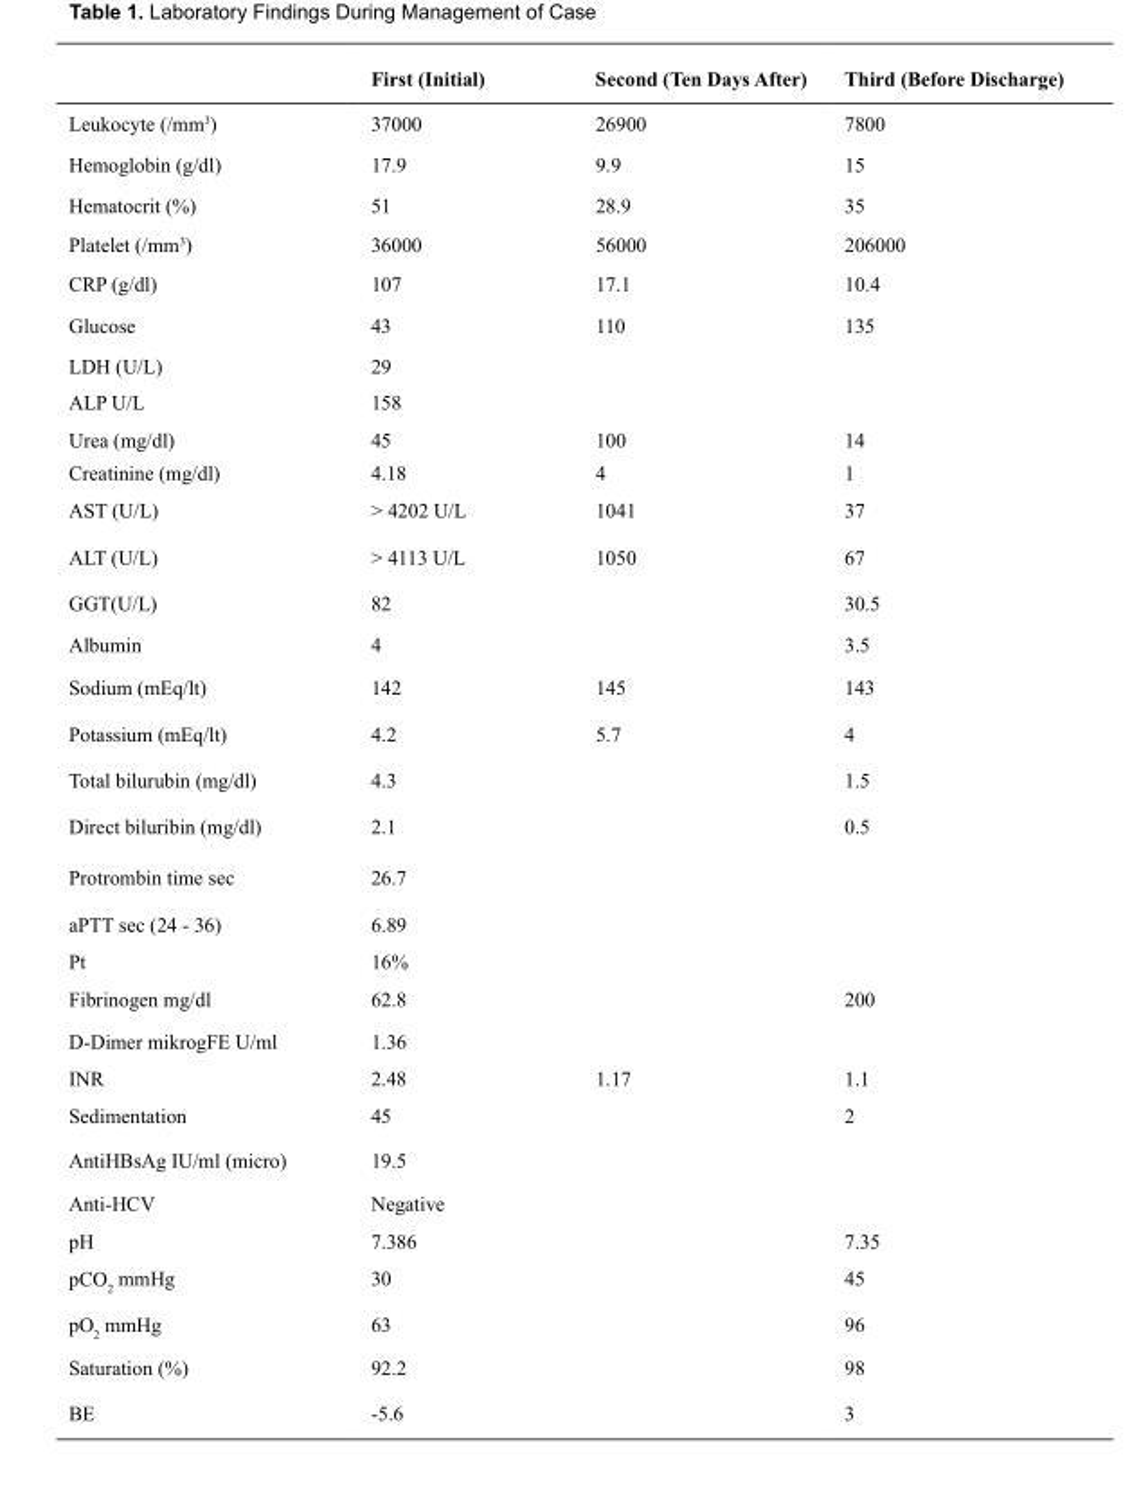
<table><thead><tr><td></td><td>First (Initial)</td><td>Second (Ten Days After)</td><td>Third (Before Discharge)</td></tr></thead><tbody><tr><td>Leukocyte (/mm<sup>3</sup>)</td><td>37000</td><td>26900</td><td>7800</td></tr><tr><td>Hemoglobin (g/dl)</td><td>17.9</td><td>9.9</td><td>15</td></tr><tr><td>Hematocrit (%)</td><td>51</td><td>28.9</td><td>35</td></tr><tr><td>Platelet (/mm<sup>3</sup>)</td><td>36000</td><td>56000</td><td>206000</td></tr><tr><td>CRP (g/dl)</td><td>107</td><td>17.1</td><td>10.4</td></tr><tr><td>Glucose</td><td>43</td><td>110</td><td>135</td></tr><tr><td>LDH (U/L)</td><td>29</td><td></td><td></td></tr><tr><td>ALP U/L</td><td>158</td><td></td><td></td></tr><tr><td>Urea (mg/dl)</td><td>45</td><td>100</td><td>14</td></tr><tr><td>Creatinine (mg/dl)</td><td>4.18</td><td>4</td><td>1</td></tr><tr><td>AST (U/L)</td><td>&gt; 4202 U/L</td><td>1041</td><td>37</td></tr><tr><td>ALT (U/L)</td><td>&gt; 4113 U/L</td><td>1050</td><td>67</td></tr><tr><td>GGT(U/L)</td><td>82</td><td></td><td>30.5</td></tr><tr><td>Albumin</td><td>4</td><td></td><td>3.5</td></tr><tr><td>Sodium (mEq/lt)</td><td>142</td><td>145</td><td>143</td></tr><tr><td>Potassium (mEq/lt)</td><td>4.2</td><td>5.7</td><td>4</td></tr><tr><td>Total bilurubin (mg/dl)</td><td>4.3</td><td></td><td>1.5</td></tr><tr><td>Direct biluribin (mg/dl)</td><td>2.1</td><td></td><td>0.5</td></tr><tr><td>Protrombin time sec</td><td>26.7</td><td></td><td></td></tr><tr><td>aPTT sec (24 - 36)</td><td>6.89</td><td></td><td></td></tr><tr><td>Pt</td><td>16%</td><td></td><td></td></tr><tr><td>Fibrinogen mg/dl</td><td>62.8</td><td></td><td>200</td></tr><tr><td>D-Dimer mikrogFE U/ml</td><td>1.36</td><td></td><td></td></tr><tr><td>INR</td><td>2.48</td><td>1.17</td><td>1.1</td></tr><tr><td>Sedimentation</td><td>45</td><td></td><td>2</td></tr><tr><td>AntiHBsAg IU/ml (micro)</td><td>19.5</td><td></td><td></td></tr><tr><td>Anti-HCV</td><td>Negative</td><td></td><td></td></tr><tr><td>pH</td><td>7.386</td><td></td><td>7.35</td></tr><tr><td>pCO<sub>2</sub> mmHg</td><td>30</td><td></td><td>45</td></tr><tr><td>pO<sub>2</sub> mmHg</td><td>63</td><td></td><td>96</td></tr><tr><td>Saturation (%)</td><td>92.2</td><td></td><td>98</td></tr><tr><td>BE</td><td>-5.6</td><td></td><td>3</td></tr></tbody></table>